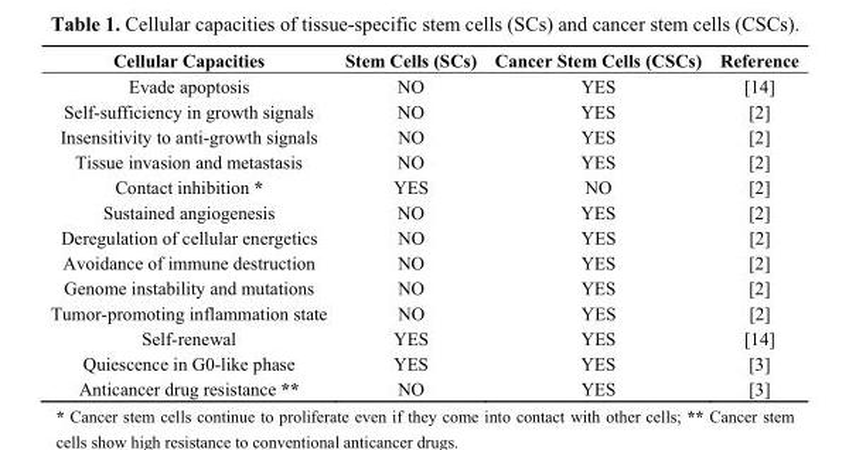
<table><thead><tr><td>Cellular Capacities</td><td>Stem Cells (SCs)</td><td>Cancer Stem Cells (CSCs)</td><td>Reference</td></tr></thead><tbody><tr><td>Evade apoptosis</td><td>NO</td><td>YES</td><td>[14]</td></tr><tr><td>Self-sufficiency in growth signals</td><td>NO</td><td>YES</td><td>[2]</td></tr><tr><td>Insensitivity to anti-growth signals</td><td>NO</td><td>YES</td><td>[2]</td></tr><tr><td>Tissue invasion and metastasis</td><td>NO</td><td>YES</td><td>[2]</td></tr><tr><td>Contact inhibition *</td><td>YES</td><td>NO</td><td>[2]</td></tr><tr><td>Sustained angiogenesis</td><td>NO</td><td>YES</td><td>[2]</td></tr><tr><td>Deregulation of cellular energetics</td><td>NO</td><td>YES</td><td>[2]</td></tr><tr><td>Avoidance of immune destruction</td><td>NO</td><td>YES</td><td>[2]</td></tr><tr><td>Genome instability and mutations</td><td>NO</td><td>YES</td><td>[2]</td></tr><tr><td>Tumor-promoting inflammation state</td><td>NO</td><td>YES</td><td>[2]</td></tr><tr><td>Self-renewal</td><td>YES</td><td>YES</td><td>[14]</td></tr><tr><td>Quiescence in G0-like phase</td><td>YES</td><td>YES</td><td>[3]</td></tr><tr><td>Anticancer drug resistance **</td><td>NO</td><td>YES</td><td>[3]</td></tr></tbody></table>